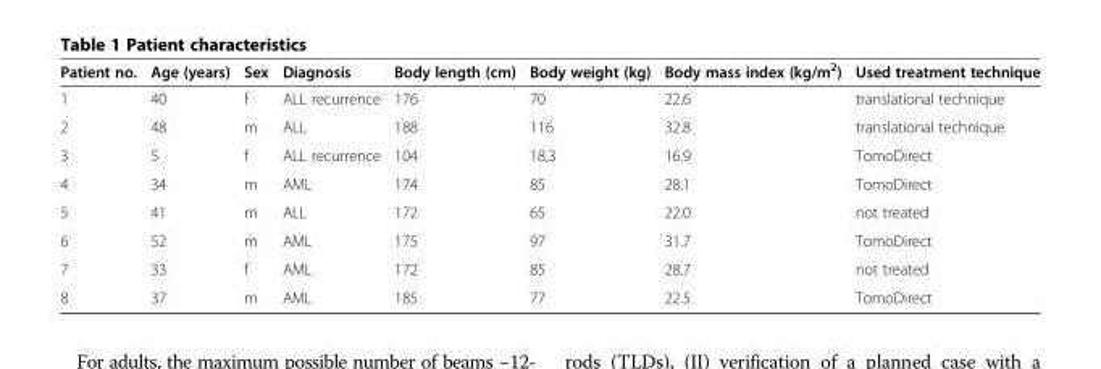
<table><thead><tr><td>Patient no.</td><td>Age (years)</td><td>Sex</td><td>Diagnosis</td><td>Body length (cm)</td><td>Body weight (kg)</td><td>Body mass index (kg/m<sup>2</sup>)</td><td>Used treatment technique</td></tr></thead><tbody><tr><td>1</td><td>40</td><td>f</td><td>ALL recurrence</td><td>176</td><td>70</td><td>22.6</td><td>translational technique</td></tr><tr><td>2</td><td>48</td><td>m</td><td>ALL</td><td>188</td><td>116</td><td>32.8</td><td>translational technique</td></tr><tr><td>3</td><td>5</td><td>f</td><td>ALL recurrence</td><td>104</td><td>18,3</td><td>16.9</td><td>TomoDirect</td></tr><tr><td>4</td><td>34</td><td>m</td><td>AML</td><td>174</td><td>85</td><td>28.1</td><td>TomoDirect</td></tr><tr><td>5</td><td>41</td><td>m</td><td>ALL</td><td>172</td><td>65</td><td>22.0</td><td>not treated</td></tr><tr><td>6</td><td>52</td><td>m</td><td>AML</td><td>175</td><td>97</td><td>31.7</td><td>TomoDirect</td></tr><tr><td>7</td><td>33</td><td>f</td><td>AML</td><td>172</td><td>85</td><td>28.7</td><td>not treated</td></tr><tr><td>8</td><td>37</td><td>m</td><td>AML</td><td>185</td><td>77</td><td>22.5</td><td>TomoDirect</td></tr></tbody></table>